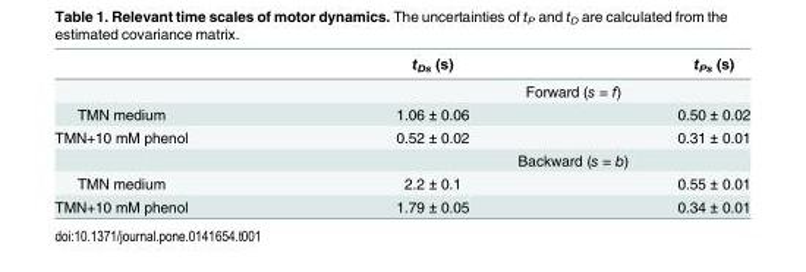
<table><thead><tr><td></td><td>t<sub>Ds</sub> (s)</td><td>t<sub>Ps</sub> (s)</td></tr></thead><tbody><tr><td></td><td colspan="2">Forward (s = f)</td></tr><tr><td>TMN medium</td><td>1.06 ± 0.06</td><td>0.50 ± 0.02</td></tr><tr><td rowspan="2">TMN+10 mM phenol</td><td>0.52 ± 0.02</td><td>0.31 ± 0.01</td></tr><tr><td colspan="2">Backward (s = b)</td></tr><tr><td>TMN medium</td><td>2.2 ± 0.1</td><td>0.55 ± 0.01</td></tr><tr><td>TMN+10 mM phenol</td><td>1.79 ± 0.05</td><td>0.34 ± 0.01</td></tr></tbody></table>